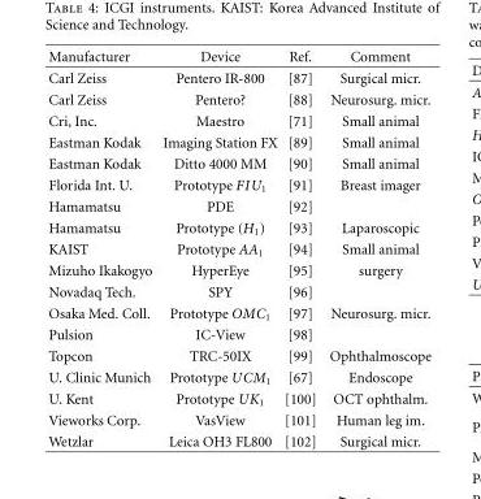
<table><thead><tr><td>Manufacturer</td><td>Device</td><td>Ref.</td><td>Comment</td></tr></thead><tbody><tr><td>Carl Zeiss</td><td>Pentero IR-800</td><td>[87]</td><td>Surgical micr.</td></tr><tr><td>Carl Zeiss</td><td>Pentero?</td><td>[88]</td><td>Neurosurg. micr.</td></tr><tr><td>Cri, Inc.</td><td>Maestro</td><td>[71]</td><td>Small animal</td></tr><tr><td>Eastman Kodak</td><td>Imaging Station FX</td><td>[89]</td><td>Small animal</td></tr><tr><td>Eastman Kodak</td><td>Ditto 4000 MM</td><td>[90]</td><td>Small animal</td></tr><tr><td>Florida Int. U.</td><td>Prototype FIU<sub>1</sub></td><td>[91]</td><td>Breast imager</td></tr><tr><td>Hamamatsu</td><td>PDE</td><td>[92]</td><td></td></tr><tr><td>Hamamatsu</td><td>Prototype (H<sub>1</sub>)</td><td>[93]</td><td>Laparoscopic</td></tr><tr><td>KAIST</td><td>Prototype AA<sub>1</sub></td><td>[94]</td><td>Small animal</td></tr><tr><td>Mizuho Ikakogyo</td><td>HyperEye</td><td>[95]</td><td>surgery</td></tr><tr><td>Novadaq Tech.</td><td>SPY</td><td>[96]</td><td></td></tr><tr><td>Osaka Med. Coll.</td><td>Prototype OMC<sub>1</sub></td><td>[97]</td><td>Neurosurg. micr.</td></tr><tr><td>Pulsion</td><td>IC-View</td><td>[98]</td><td></td></tr><tr><td>Topcon</td><td>TRC-50IX</td><td>[99]</td><td>Ophthalmoscope</td></tr><tr><td>U. Clinic Munich</td><td>Prototype UCM<sub>1</sub></td><td>[67]</td><td>Endoscope</td></tr><tr><td>U. Kent</td><td>Prototype UK<sub>1</sub></td><td>[100]</td><td>OCT ophthalm.</td></tr><tr><td>Vieworks Corp.</td><td>VasView</td><td>[101]</td><td>Human leg im.</td></tr><tr><td>Wetzlar</td><td>Leica OH3 FL800</td><td>[102]</td><td>Surgical micr.</td></tr></tbody></table>